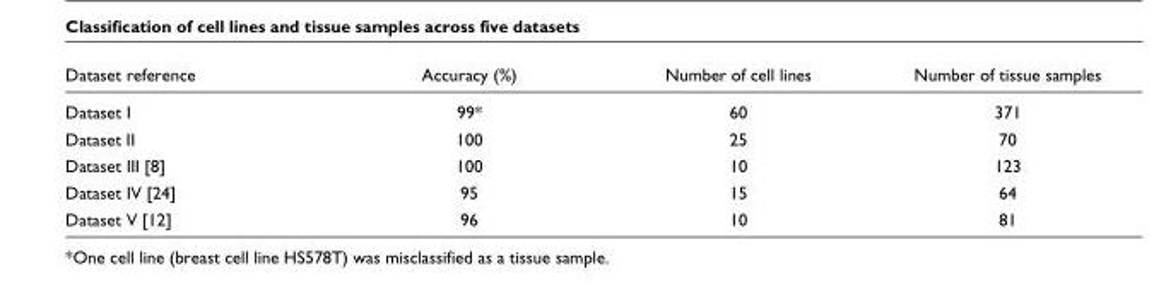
<table><thead><tr><td>Dataset reference</td><td>Accuracy (%)</td><td>Number of cell lines</td><td>Number of tissue samples</td></tr></thead><tbody><tr><td>Dataset I</td><td>99*</td><td>60</td><td>371</td></tr><tr><td>Dataset II</td><td>100</td><td>25</td><td>70</td></tr><tr><td>Dataset III [8]</td><td>100</td><td>10</td><td>123</td></tr><tr><td>Dataset IV [24]</td><td>95</td><td>15</td><td>64</td></tr><tr><td>Dataset V [12]</td><td>96</td><td>10</td><td>81</td></tr></tbody></table>